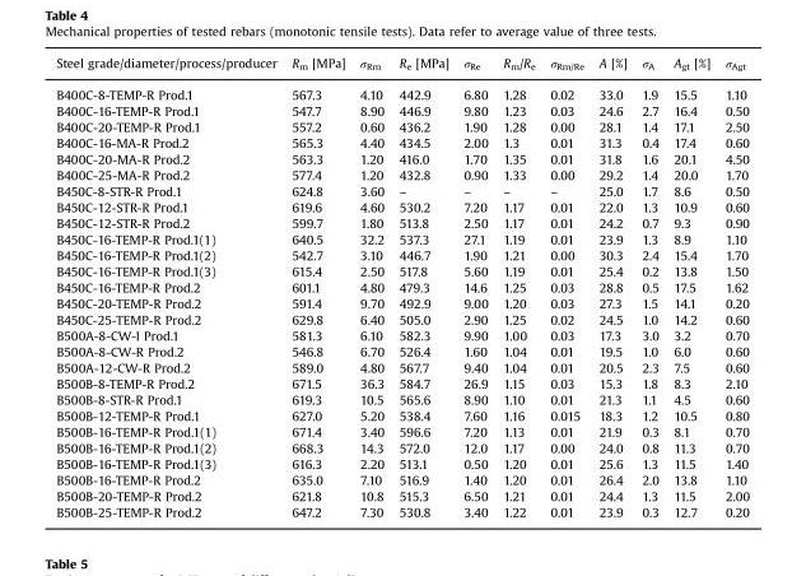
<table><thead><tr><td>Steel grade/diameter/process/producer</td><td>R<sub>m</sub> [MPa]</td><td>σ<sub>Rm</sub></td><td>R<sub>e</sub> [MPa]</td><td>σ<sub>Re</sub></td><td>R<sub>m</sub>/R<sub>e</sub></td><td>σ<sub>Rm/Re</sub></td><td>A [%]</td><td>σ<sub>A</sub></td><td>A<sub>gt</sub> [%]</td><td>σ<sub>Agt</sub></td></tr></thead><tbody><tr><td>B400C-8-TEMP-R Prod.1</td><td>567.3</td><td>4.10</td><td>442.9</td><td>6.80</td><td>1.28</td><td>0.02</td><td>33.0</td><td>1.9</td><td>15.5</td><td>1.10</td></tr><tr><td>B400C-16-TEMP-R Prod.1</td><td>547.7</td><td>8.90</td><td>446.9</td><td>9.80</td><td>1.23</td><td>0.03</td><td>24.6</td><td>2.7</td><td>16.4</td><td>0.50</td></tr><tr><td>B400C-20-TEMP-R Prod.1</td><td>557.2</td><td>0.60</td><td>436.2</td><td>1.90</td><td>1.28</td><td>0.00</td><td>28.1</td><td>1.4</td><td>17.1</td><td>2.50</td></tr><tr><td>B400C-16-MA-R Prod.2</td><td>565.3</td><td>4.40</td><td>434.5</td><td>2.00</td><td>1.3</td><td>0.01</td><td>31.3</td><td>0.4</td><td>17.4</td><td>0.60</td></tr><tr><td>B400C-20-MA-R Prod.2</td><td>563.3</td><td>1.20</td><td>416.0</td><td>1.70</td><td>1.35</td><td>0.01</td><td>31.8</td><td>1.6</td><td>20.1</td><td>4.50</td></tr><tr><td>B400C-25-MA-R Prod.2</td><td>577.4</td><td>1.20</td><td>432.8</td><td>0.90</td><td>1.33</td><td>0.00</td><td>29.2</td><td>1.4</td><td>20.0</td><td>1.70</td></tr><tr><td>B450C-8-STR-R Prod.1</td><td>624.8</td><td>3.60</td><td>–</td><td>–</td><td>–</td><td>–</td><td>25.0</td><td>1.7</td><td>8.6</td><td>0.50</td></tr><tr><td>B450C-12-STR-R Prod.1</td><td>619.6</td><td>4.60</td><td>530.2</td><td>7.20</td><td>1.17</td><td>0.01</td><td>22.0</td><td>1.3</td><td>10.9</td><td>0.60</td></tr><tr><td>B450C-12-STR-R Prod.2</td><td>599.7</td><td>1.80</td><td>513.8</td><td>2.50</td><td>1.17</td><td>0.01</td><td>24.2</td><td>0.7</td><td>9.3</td><td>0.90</td></tr><tr><td>B450C-16-TEMP-R Prod.1(1)</td><td>640.5</td><td>32.2</td><td>537.3</td><td>27.1</td><td>1.19</td><td>0.01</td><td>23.9</td><td>1.3</td><td>8.9</td><td>1.10</td></tr><tr><td>B450C-16-TEMP-R Prod.1(2)</td><td>542.7</td><td>3.10</td><td>446.7</td><td>1.90</td><td>1.21</td><td>0.00</td><td>30.3</td><td>2.4</td><td>15.4</td><td>1.70</td></tr><tr><td>B450C-16-TEMP-R Prod.1(3)</td><td>615.4</td><td>2.50</td><td>517.8</td><td>5.60</td><td>1.19</td><td>0.01</td><td>25.4</td><td>0.2</td><td>13.8</td><td>1.50</td></tr><tr><td>B450C-16-TEMP-R Prod.2</td><td>601.1</td><td>4.80</td><td>479.3</td><td>14.6</td><td>1.25</td><td>0.03</td><td>28.8</td><td>0.5</td><td>17.5</td><td>1.62</td></tr><tr><td>B450C-20-TEMP-R Prod.2</td><td>591.4</td><td>9.70</td><td>492.9</td><td>9.00</td><td>1.20</td><td>0.03</td><td>27.3</td><td>1.5</td><td>14.1</td><td>0.20</td></tr><tr><td>B450C-25-TEMP-R Prod.2</td><td>629.8</td><td>6.40</td><td>505.0</td><td>2.90</td><td>1.25</td><td>0.02</td><td>24.5</td><td>1.0</td><td>14.2</td><td>0.60</td></tr><tr><td>B500A-8-CW-I Prod.1</td><td>581.3</td><td>6.10</td><td>582.3</td><td>9.90</td><td>1.00</td><td>0.03</td><td>17.3</td><td>3.0</td><td>3.2</td><td>0.70</td></tr><tr><td>B500A-8-CW-R Prod.2</td><td>546.8</td><td>6.70</td><td>526.4</td><td>1.60</td><td>1.04</td><td>0.01</td><td>19.5</td><td>1.0</td><td>6.0</td><td>0.60</td></tr><tr><td>B500A-12-CW-R Prod.2</td><td>589.0</td><td>4.80</td><td>567.7</td><td>9.40</td><td>1.04</td><td>0.01</td><td>20.5</td><td>2.3</td><td>7.5</td><td>0.60</td></tr><tr><td>B500B-8-TEMP-R Prod.2</td><td>671.5</td><td>36.3</td><td>584.7</td><td>26.9</td><td>1.15</td><td>0.03</td><td>15.3</td><td>1.8</td><td>8.3</td><td>2.10</td></tr><tr><td>B500B-8-STR-R Prod.1</td><td>619.3</td><td>10.5</td><td>565.6</td><td>8.90</td><td>1.10</td><td>0.01</td><td>21.3</td><td>1.1</td><td>4.5</td><td>0.60</td></tr><tr><td>B500B-12-TEMP-R Prod.1</td><td>627.0</td><td>5.20</td><td>538.4</td><td>7.60</td><td>1.16</td><td>0.015</td><td>18.3</td><td>1.2</td><td>10.5</td><td>0.80</td></tr><tr><td>B500B-16-TEMP-R Prod.1(1)</td><td>671.4</td><td>3.40</td><td>596.6</td><td>7.20</td><td>1.13</td><td>0.01</td><td>21.9</td><td>0.3</td><td>8.1</td><td>0.70</td></tr><tr><td>B500B-16-TEMP-R Prod.1(2)</td><td>668.3</td><td>14.3</td><td>572.0</td><td>12.0</td><td>1.17</td><td>0.00</td><td>24.0</td><td>0.8</td><td>11.3</td><td>0.70</td></tr><tr><td>B500B-16-TEMP-R Prod.1(3)</td><td>616.3</td><td>2.20</td><td>513.1</td><td>0.50</td><td>1.20</td><td>0.01</td><td>25.6</td><td>1.3</td><td>11.5</td><td>1.40</td></tr><tr><td>B500B-16-TEMP-R Prod.2</td><td>635.0</td><td>7.10</td><td>516.9</td><td>1.40</td><td>1.20</td><td>0.01</td><td>26.4</td><td>2.0</td><td>13.8</td><td>1.10</td></tr><tr><td>B500B-20-TEMP-R Prod.2</td><td>621.8</td><td>10.8</td><td>515.3</td><td>6.50</td><td>1.21</td><td>0.01</td><td>24.4</td><td>1.3</td><td>11.5</td><td>2.00</td></tr><tr><td>B500B-25-TEMP-R Prod.2</td><td>647.2</td><td>7.30</td><td>530.8</td><td>3.40</td><td>1.22</td><td>0.01</td><td>23.9</td><td>0.3</td><td>12.7</td><td>0.20</td></tr></tbody></table>